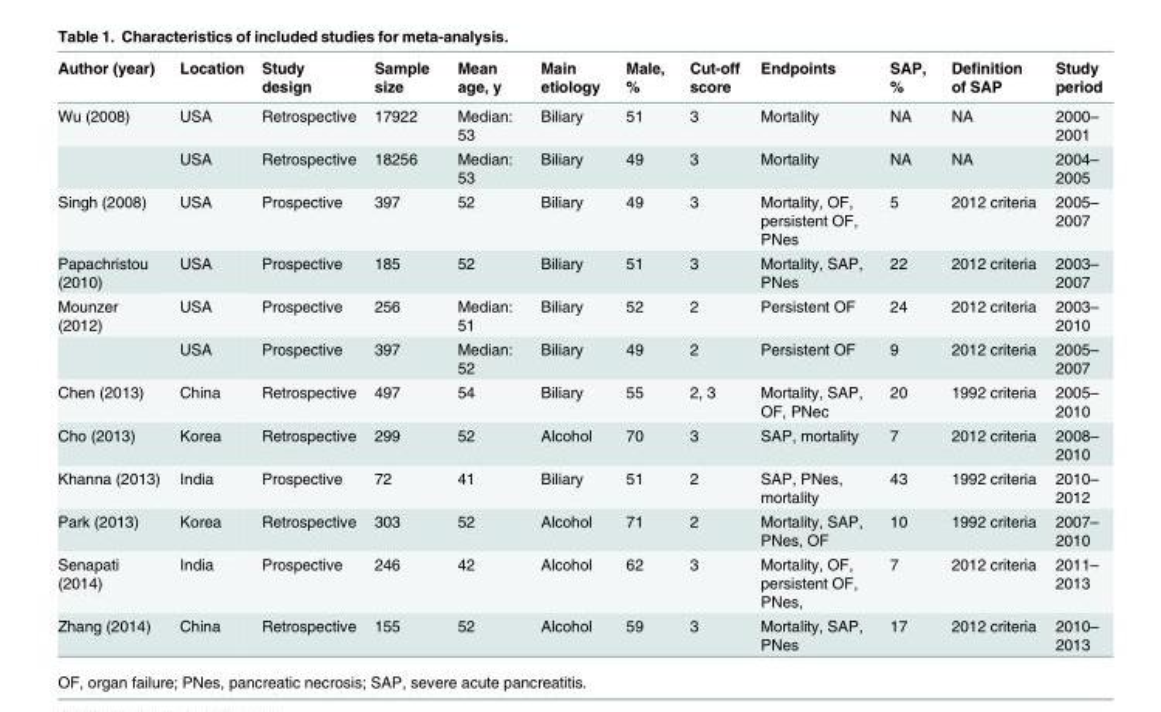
<table><thead><tr><td>Author (year)</td><td>Location</td><td>Study design</td><td>Sample size</td><td>Mean age, y</td><td>Main etiology</td><td>Male, %</td><td>Cut-off score</td><td>Endpoints</td><td>SAP, %</td><td>Definition of SAP</td><td>Study period</td></tr></thead><tbody><tr><td rowspan="2">Wu (2008)</td><td>USA</td><td>Retrospective</td><td>17922</td><td>Median: 53</td><td>Biliary</td><td>51</td><td>3</td><td>Mortality</td><td>NA</td><td>NA</td><td>2000– 2001</td></tr><tr><td>USA</td><td>Retrospective</td><td>18256</td><td>Median: 53</td><td>Biliary</td><td>49</td><td>3</td><td>Mortality</td><td>NA</td><td>NA</td><td>2004– 2005</td></tr><tr><td>Singh (2008)</td><td>USA</td><td>Prospective</td><td>397</td><td>52</td><td>Biliary</td><td>49</td><td>3</td><td>Mortality, OF, persistent OF, PNes</td><td>5</td><td>2012 criteria</td><td>2005– 2007</td></tr><tr><td>Papachristou (2010)</td><td>USA</td><td>Prospective</td><td>185</td><td>52</td><td>Biliary</td><td>51</td><td>3</td><td>Mortality, SAP, PNes</td><td>22</td><td>2012 criteria</td><td>2003– 2007</td></tr><tr><td rowspan="2">Mounzer (2012)</td><td>USA</td><td>Prospective</td><td>256</td><td>Median: 51</td><td>Biliary</td><td>52</td><td>2</td><td>Persistent OF</td><td>24</td><td>2012 criteria</td><td>2003– 2010</td></tr><tr><td>USA</td><td>Prospective</td><td>397</td><td>Median: 52</td><td>Biliary</td><td>49</td><td>2</td><td>Persistent OF</td><td>9</td><td>2012 criteria</td><td>2005– 2007</td></tr><tr><td>Chen (2013)</td><td>China</td><td>Retrospective</td><td>497</td><td>54</td><td>Biliary</td><td>55</td><td>2, 3</td><td>Mortality, SAP, OF, PNec</td><td>20</td><td>1992 criteria</td><td>2005– 2010</td></tr><tr><td>Cho (2013)</td><td>Korea</td><td>Retrospective</td><td>299</td><td>52</td><td>Alcohol</td><td>70</td><td>3</td><td>SAP, mortality</td><td>7</td><td>2012 criteria</td><td>2008– 2010</td></tr><tr><td>Khanna (2013)</td><td>India</td><td>Prospective</td><td>72</td><td>41</td><td>Biliary</td><td>51</td><td>2</td><td>SAP, PNes, mortality</td><td>43</td><td>1992 criteria</td><td>2010– 2012</td></tr><tr><td>Park (2013)</td><td>Korea</td><td>Retrospective</td><td>303</td><td>52</td><td>Alcohol</td><td>71</td><td>2</td><td>Mortality, SAP, PNes, OF</td><td>10</td><td>1992 criteria</td><td>2007– 2010</td></tr><tr><td>Senapati (2014)</td><td>India</td><td>Prospective</td><td>246</td><td>42</td><td>Alcohol</td><td>62</td><td>3</td><td>Mortality, OF, persistent OF, PNes,</td><td>7</td><td>2012 criteria</td><td>2011– 2013</td></tr><tr><td>Zhang (2014)</td><td>China</td><td>Retrospective</td><td>155</td><td>52</td><td>Alcohol</td><td>59</td><td>3</td><td>Mortality, SAP, PNes</td><td>17</td><td>2012 criteria</td><td>2010– 2013</td></tr></tbody></table>